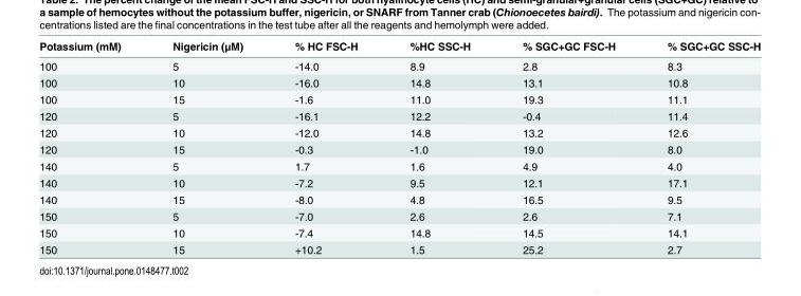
<table><thead><tr><td>Potassium (mM)</td><td>Nigericin (μM)</td><td>% HC FSC-H</td><td>%HC SSC-H</td><td>% SGC+GC FSC-H</td><td>% SGC+GC SSC-H</td></tr></thead><tbody><tr><td>100</td><td>5</td><td>-14.0</td><td>8.9</td><td>2.8</td><td>8.3</td></tr><tr><td>100</td><td>10</td><td>-16.0</td><td>14.8</td><td>13.1</td><td>10.8</td></tr><tr><td>100</td><td>15</td><td>-1.6</td><td>11.0</td><td>19.3</td><td>11.1</td></tr><tr><td>120</td><td>5</td><td>-16.1</td><td>12.2</td><td>-0.4</td><td>11.4</td></tr><tr><td>120</td><td>10</td><td>-12.0</td><td>14.8</td><td>13.2</td><td>12.6</td></tr><tr><td>120</td><td>15</td><td>-0.3</td><td>-1.0</td><td>19.0</td><td>8.0</td></tr><tr><td>140</td><td>5</td><td>1.7</td><td>1.6</td><td>4.9</td><td>4.0</td></tr><tr><td>140</td><td>10</td><td>-7.2</td><td>9.5</td><td>12.1</td><td>17.1</td></tr><tr><td>140</td><td>15</td><td>-8.0</td><td>4.8</td><td>16.5</td><td>9.5</td></tr><tr><td>150</td><td>5</td><td>-7.0</td><td>2.6</td><td>2.6</td><td>7.1</td></tr><tr><td>150</td><td>10</td><td>-7.4</td><td>14.8</td><td>14.5</td><td>14.1</td></tr><tr><td>150</td><td>15</td><td>+10.2</td><td>1.5</td><td>25.2</td><td>2.7</td></tr></tbody></table>